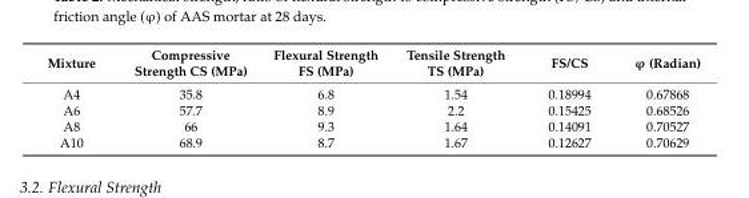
<table><thead><tr><td>Mixture</td><td>Compressive Strength CS (MPa)</td><td>Flexural Strength FS (MPa)</td><td>Tensile Strength TS (MPa)</td><td>FS/CS</td><td>ϕ (Radian)</td></tr></thead><tbody><tr><td>A4</td><td>35.8</td><td>6.8</td><td>1.54</td><td>0.18994</td><td>0.67868</td></tr><tr><td>A6</td><td>57.7</td><td>8.9</td><td>2.2</td><td>0.15425</td><td>0.68526</td></tr><tr><td>A8</td><td>66</td><td>9.3</td><td>1.64</td><td>0.14091</td><td>0.70527</td></tr><tr><td>A10</td><td>68.9</td><td>8.7</td><td>1.67</td><td>0.12627</td><td>0.70629</td></tr></tbody></table>